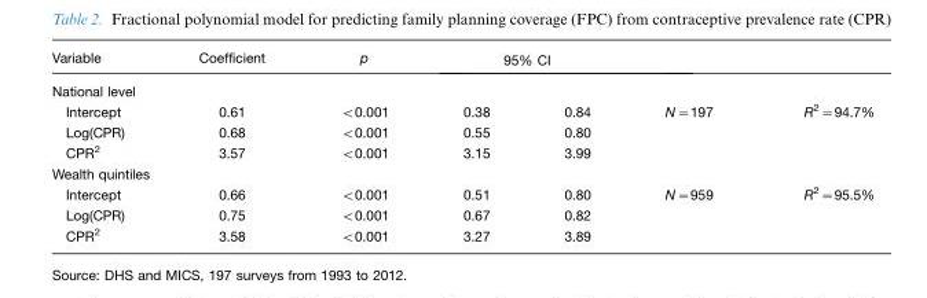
<table><thead><tr><td>Variable</td><td>Coefficient</td><td>p</td><td colspan="2">95% CI</td><td></td><td></td></tr><tr><td colspan="7">National level</td></tr><tr><td>Intercept</td><td>0.61</td><td>&lt;0.001</td><td>0.38</td><td>0.84</td><td>N=197</td><td>R<sup>2</sup>=94.7%</td></tr></thead><tbody><tr><td>Log(CPR)</td><td>0.68</td><td>&lt;0.001</td><td>0.55</td><td>0.80</td><td></td><td></td></tr><tr><td>CPR<sup>2</sup></td><td>3.57</td><td>&lt;0.001</td><td>3.15</td><td>3.99</td><td></td><td></td></tr><tr><td colspan="7">Wealth quintiles</td></tr><tr><td>Intercept</td><td>0.66</td><td>&lt;0.001</td><td>0.51</td><td>0.80</td><td>N=959</td><td>R<sup>2</sup>=95.5%</td></tr><tr><td>Log(CPR)</td><td>0.75</td><td>&lt;0.001</td><td>0.67</td><td>0.82</td><td></td><td></td></tr><tr><td>CPR<sup>2</sup></td><td>3.58</td><td>&lt;0.001</td><td>3.27</td><td>3.89</td><td></td><td></td></tr></tbody></table>